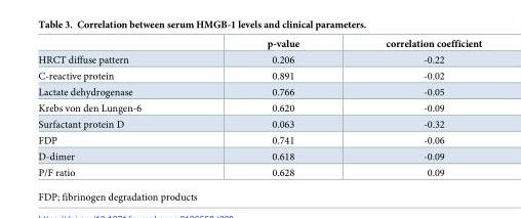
<table><thead><tr><td></td><td>p-value</td><td>correlation coefficient</td></tr></thead><tbody><tr><td>HRCT diffuse pattern</td><td>0.206</td><td>-0.22</td></tr><tr><td>C-reactive protein</td><td>0.891</td><td>-0.02</td></tr><tr><td>Lactate dehydrogenase</td><td>0.766</td><td>-0.05</td></tr><tr><td>Krebs von den Lungen-6</td><td>0.620</td><td>-0.09</td></tr><tr><td>Surfactant protein D</td><td>0.063</td><td>-0.32</td></tr><tr><td>FDP</td><td>0.741</td><td>-0.06</td></tr><tr><td>D-dimer</td><td>0.618</td><td>-0.09</td></tr><tr><td>P/F ratio</td><td>0.628</td><td>0.09</td></tr></tbody></table>